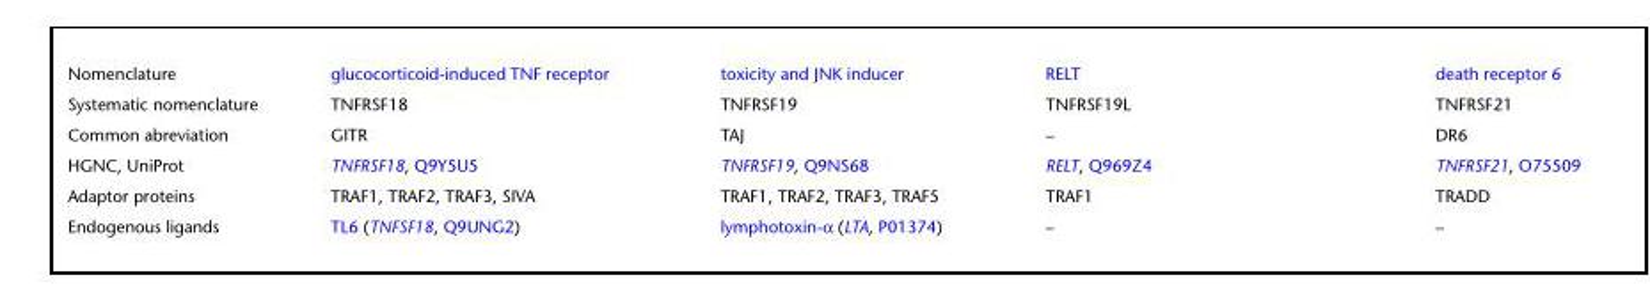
<table><tbody><tr><td>Nomenclature</td><td>glucocorticoid-induced TNF receptor</td><td>toxicity and JNK inducer</td><td>RELT</td><td>death receptor 6</td></tr><tr><td>Systematic nomenclature</td><td>TNFRSF18</td><td>TNFRSF19</td><td>TNFRSF19L</td><td>TNFRSF21</td></tr><tr><td>Common abreviation</td><td>GITR</td><td>TAJ</td><td>–</td><td>DR6</td></tr><tr><td>HGNC, UniProt</td><td>TNFRSF18, Q9Y5U5</td><td>TNFRSF19, Q9NS68</td><td>RELT, Q969Z4</td><td>TNFRSF21, O75509</td></tr><tr><td>Adaptor proteins</td><td>TRAF1, TRAF2, TRAF3, SIVA</td><td>TRAF1, TRAF2, TRAF3, TRAF5</td><td>TRAF1</td><td>TRADD</td></tr><tr><td>Endogenous ligands</td><td>TL6 (TNFSF18, Q9UNG2)</td><td>lymphotoxin-α (LTA, P01374)</td><td>–</td><td>–</td></tr></tbody></table>